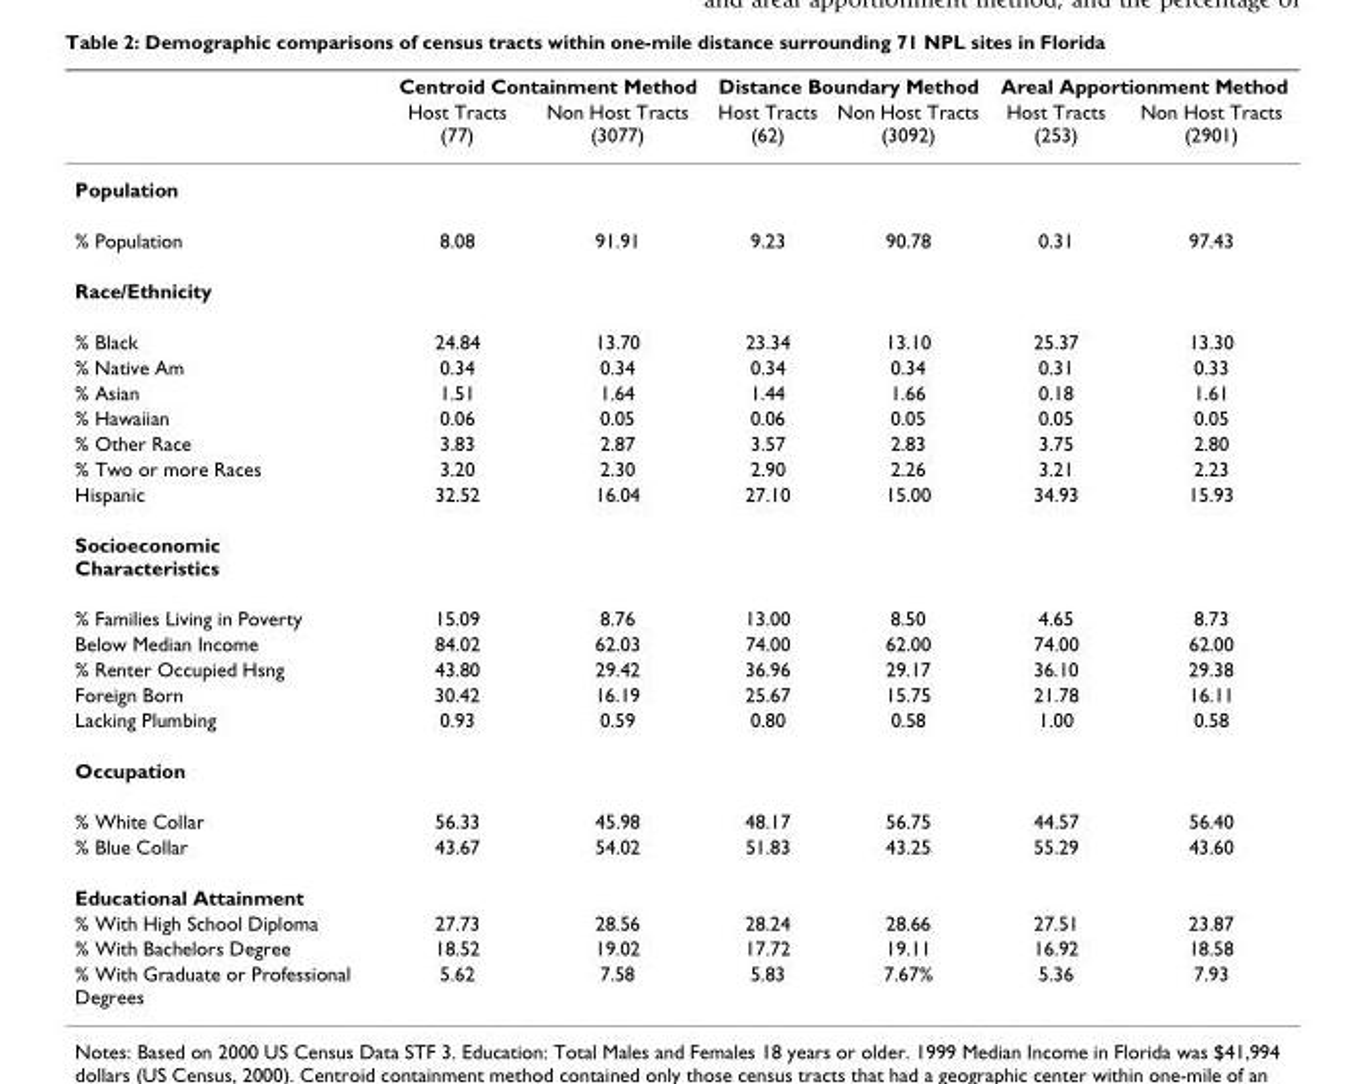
<table><thead><tr><td rowspan="2"></td><td colspan="2">Centroid Containment Method</td><td colspan="2">Distance Boundary Method</td><td colspan="2">Areal Apportionment Method</td></tr><tr><td>Host Tracts (77)</td><td>Non Host Tracts (3077)</td><td>Host Tracts (62)</td><td>Non Host Tracts (3092)</td><td>Host Tracts (253)</td><td>Non Host Tracts (2901)</td></tr></thead><tbody><tr><td colspan="7">Population</td></tr><tr><td>% Population</td><td>8.08</td><td>91.91</td><td>9.23</td><td>90.78</td><td>0.31</td><td>97.43</td></tr><tr><td colspan="7">Race/Ethnicity</td></tr><tr><td>% Black</td><td>24.84</td><td>13.70</td><td>23.34</td><td>13.10</td><td>25.37</td><td>13.30</td></tr><tr><td>% Native Am</td><td>0.34</td><td>0.34</td><td>0.34</td><td>0.34</td><td>0.31</td><td>0.33</td></tr><tr><td>% Asian</td><td>1.51</td><td>1.64</td><td>1.44</td><td>1.66</td><td>0.18</td><td>1.61</td></tr><tr><td>% Hawaiian</td><td>0.06</td><td>0.05</td><td>0.06</td><td>0.05</td><td>0.05</td><td>0.05</td></tr><tr><td>% Other Race</td><td>3.83</td><td>2.87</td><td>3.57</td><td>2.83</td><td>3.75</td><td>2.80</td></tr><tr><td>% Two or more Races</td><td>3.20</td><td>2.30</td><td>2.90</td><td>2.26</td><td>3.21</td><td>2.23</td></tr><tr><td>Hispanic</td><td>32.52</td><td>16.04</td><td>27.10</td><td>15.00</td><td>34.93</td><td>15.93</td></tr><tr><td colspan="7">Socioeconomic Characteristics</td></tr><tr><td>% Families Living in Poverty</td><td>15.09</td><td>8.76</td><td>13.00</td><td>8.50</td><td>4.65</td><td>8.73</td></tr><tr><td>Below Median Income</td><td>84.02</td><td>62.03</td><td>74.00</td><td>62.00</td><td>74.00</td><td>62.00</td></tr><tr><td>% Renter Occupied Hsng</td><td>43.80</td><td>29.42</td><td>36.96</td><td>29.17</td><td>36.10</td><td>29.38</td></tr><tr><td>Foreign Born</td><td>30.42</td><td>16.19</td><td>25.67</td><td>15.75</td><td>21.78</td><td>16.11</td></tr><tr><td>Lacking Plumbing</td><td>0.93</td><td>0.59</td><td>0.80</td><td>0.58</td><td>1.00</td><td>0.58</td></tr><tr><td colspan="7">Occupation</td></tr><tr><td>% White Collar</td><td>56.33</td><td>45.98</td><td>48.17</td><td>56.75</td><td>44.57</td><td>56.40</td></tr><tr><td>% Blue Collar</td><td>43.67</td><td>54.02</td><td>51.83</td><td>43.25</td><td>55.29</td><td>43.60</td></tr><tr><td colspan="7">Educational Attainment</td></tr><tr><td>% With High School Diploma</td><td>27.73</td><td>28.56</td><td>28.24</td><td>28.66</td><td>27.51</td><td>23.87</td></tr><tr><td>% With Bachelors Degree</td><td>18.52</td><td>19.02</td><td>17.72</td><td>19.11</td><td>16.92</td><td>18.58</td></tr><tr><td>% With Graduate or Professional Degrees</td><td>5.62</td><td>7.58</td><td>5.83</td><td>7.67%</td><td>5.36</td><td>7.93</td></tr></tbody></table>